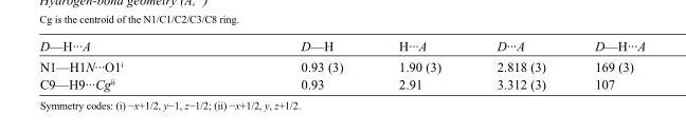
<table><tbody><tr><td>D—H···A</td><td>D—H</td><td>H···A</td><td>D···A</td><td>D—H···A</td></tr><tr><td>N1—H1N···O1<sup>i</sup></td><td>0.93 (3)</td><td>1.90 (3)</td><td>2.818 (3)</td><td>169 (3)</td></tr><tr><td>C9—H9···Cg<sup>ii</sup></td><td>0.93</td><td>2.91</td><td>3.312 (3)</td><td>107</td></tr></tbody></table>